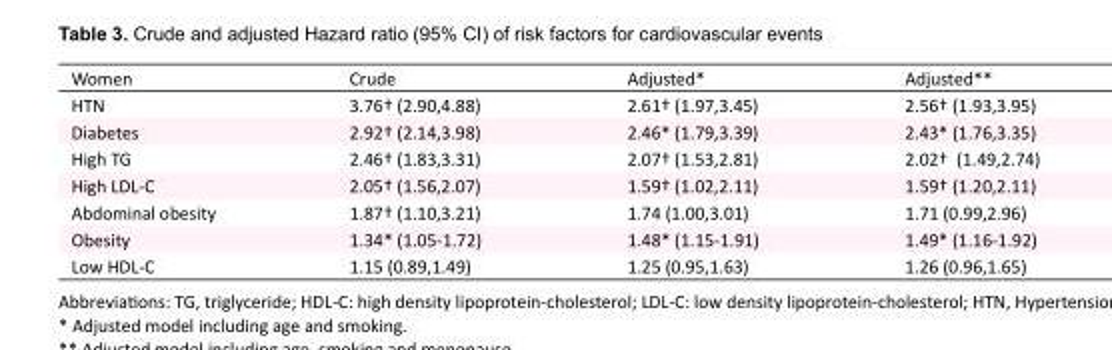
<table><tbody><tr><td>Women</td><td>Crude</td><td>Adjusted*</td><td>Adjusted**</td></tr><tr><td>HTN</td><td>3.76† (2.90,4.88)</td><td>2.61† (1.97,3.45)</td><td>2.56† (1.93,3.95)</td></tr><tr><td>Diabetes</td><td>2.92† (2.14,3.98)</td><td>2.46* (1.79,3.39)</td><td>2.43* (1.76,3.35)</td></tr><tr><td>High TG</td><td>2.46† (1.83,3.31)</td><td>2.07† (1.53,2.81)</td><td>2.02† (1.49,2.74)</td></tr><tr><td>High LDL-C</td><td>2.05† (1.56,2.07)</td><td>1.59† (1.02,2.11)</td><td>1.59† (1.20,2.11)</td></tr><tr><td>Abdominal obesity</td><td>1.87† (1.10,3.21)</td><td>1.74 (1.00,3.01)</td><td>1.71 (0.99,2.96)</td></tr><tr><td>Obesity</td><td>1.34* (1.05-1.72)</td><td>1.48* (1.15-1.91)</td><td>1.49* (1.16-1.92)</td></tr><tr><td>Low HDL-C</td><td>1.15 (0.89,1.49)</td><td>1.25 (0.95,1.63)</td><td>1.26 (0.96,1.65)</td></tr></tbody></table>